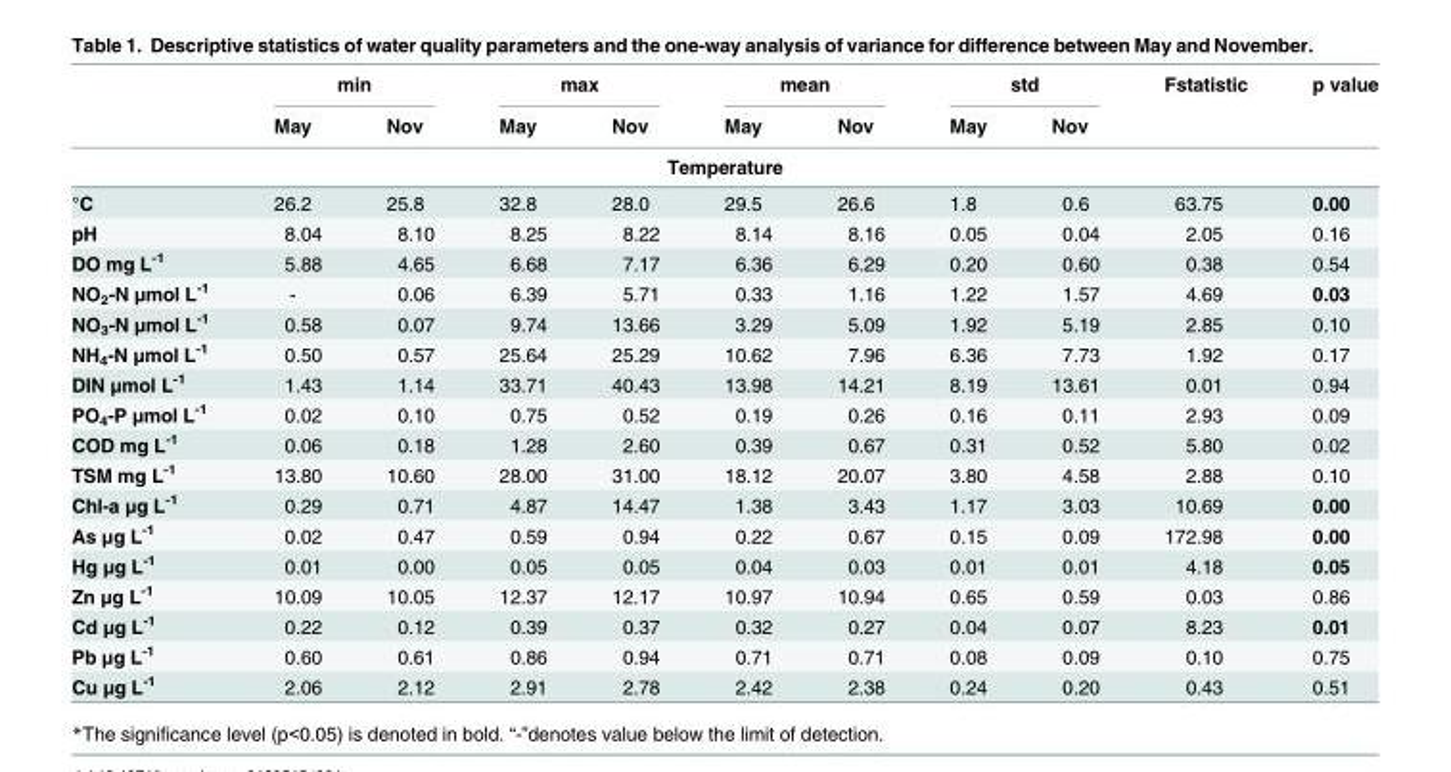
<table><thead><tr><td rowspan="2"></td><td colspan="2">min</td><td colspan="2">max</td><td colspan="2">mean</td><td colspan="2">std</td><td rowspan="2">Fstatistic</td><td rowspan="2">p value</td></tr><tr><td>May</td><td>Nov</td><td>May</td><td>Nov</td><td>May</td><td>Nov</td><td>May</td><td>Nov</td></tr><tr><td colspan="11">Temperature</td></tr></thead><tbody><tr><td>°C</td><td>26.2</td><td>25.8</td><td>32.8</td><td>28.0</td><td>29.5</td><td>26.6</td><td>1.8</td><td>0.6</td><td>63.75</td><td>0.00</td></tr><tr><td>pH</td><td>8.04</td><td>8.10</td><td>8.25</td><td>8.22</td><td>8.14</td><td>8.16</td><td>0.05</td><td>0.04</td><td>2.05</td><td>0.16</td></tr><tr><td>DO mg L<sup>-1</sup></td><td>5.88</td><td>4.65</td><td>6.68</td><td>7.17</td><td>6.36</td><td>6.29</td><td>0.20</td><td>0.60</td><td>0.38</td><td>0.54</td></tr><tr><td>NO<sub>2</sub>-N μmol L<sup>-1</sup></td><td>-</td><td>0.06</td><td>6.39</td><td>5.71</td><td>0.33</td><td>1.16</td><td>1.22</td><td>1.57</td><td>4.69</td><td>0.03</td></tr><tr><td>NO<sub>3</sub>-N μmol L<sup>-1</sup></td><td>0.58</td><td>0.07</td><td>9.74</td><td>13.66</td><td>3.29</td><td>5.09</td><td>1.92</td><td>5.19</td><td>2.85</td><td>0.10</td></tr><tr><td>NH<sub>4</sub>-N μmol L<sup>-1</sup></td><td>0.50</td><td>0.57</td><td>25.64</td><td>25.29</td><td>10.62</td><td>7.96</td><td>6.36</td><td>7.73</td><td>1.92</td><td>0.17</td></tr><tr><td>DIN μmol L<sup>-1</sup></td><td>1.43</td><td>1.14</td><td>33.71</td><td>40.43</td><td>13.98</td><td>14.21</td><td>8.19</td><td>13.61</td><td>0.01</td><td>0.94</td></tr><tr><td>PO<sub>4</sub>-P μmol L<sup>-1</sup></td><td>0.02</td><td>0.10</td><td>0.75</td><td>0.52</td><td>0.19</td><td>0.26</td><td>0.16</td><td>0.11</td><td>2.93</td><td>0.09</td></tr><tr><td>COD mg L<sup>-1</sup></td><td>0.06</td><td>0.18</td><td>1.28</td><td>2.60</td><td>0.39</td><td>0.67</td><td>0.31</td><td>0.52</td><td>5.80</td><td>0.02</td></tr><tr><td>TSM mg L<sup>-1</sup></td><td>13.80</td><td>10.60</td><td>28.00</td><td>31.00</td><td>18.12</td><td>20.07</td><td>3.80</td><td>4.58</td><td>2.88</td><td>0.10</td></tr><tr><td>Chl-a μg L<sup>-1</sup></td><td>0.29</td><td>0.71</td><td>4.87</td><td>14.47</td><td>1.38</td><td>3.43</td><td>1.17</td><td>3.03</td><td>10.69</td><td>0.00</td></tr><tr><td>As μg L<sup>-1</sup></td><td>0.02</td><td>0.47</td><td>0.59</td><td>0.94</td><td>0.22</td><td>0.67</td><td>0.15</td><td>0.09</td><td>172.98</td><td>0.00</td></tr><tr><td>Hg μg L<sup>-1</sup></td><td>0.01</td><td>0.00</td><td>0.05</td><td>0.05</td><td>0.04</td><td>0.03</td><td>0.01</td><td>0.01</td><td>4.18</td><td>0.05</td></tr><tr><td>Zn μg L<sup>-1</sup></td><td>10.09</td><td>10.05</td><td>12.37</td><td>12.17</td><td>10.97</td><td>10.94</td><td>0.65</td><td>0.59</td><td>0.03</td><td>0.86</td></tr><tr><td>Cd μg L<sup>-1</sup></td><td>0.22</td><td>0.12</td><td>0.39</td><td>0.37</td><td>0.32</td><td>0.27</td><td>0.04</td><td>0.07</td><td>8.23</td><td>0.01</td></tr><tr><td>Pb μg L<sup>-1</sup></td><td>0.60</td><td>0.61</td><td>0.86</td><td>0.94</td><td>0.71</td><td>0.71</td><td>0.08</td><td>0.09</td><td>0.10</td><td>0.75</td></tr><tr><td>Cu μg L<sup>-1</sup></td><td>2.06</td><td>2.12</td><td>2.91</td><td>2.78</td><td>2.42</td><td>2.38</td><td>0.24</td><td>0.20</td><td>0.43</td><td>0.51</td></tr></tbody></table>